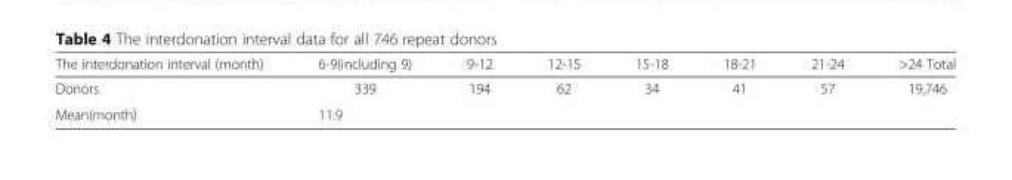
<table><thead><tr><td>The interdonation interval (month)</td><td>6-9(including 9)</td><td>9-12</td><td>12-15</td><td>15-18</td><td>18-21</td><td>21-24</td><td>&gt;24 Total</td></tr></thead><tbody><tr><td>Donors</td><td>339</td><td>194</td><td>62</td><td>34</td><td>41</td><td>57</td><td>19,746</td></tr><tr><td>Mean(month)</td><td>11.9</td><td></td><td></td><td></td><td></td><td></td><td></td></tr></tbody></table>